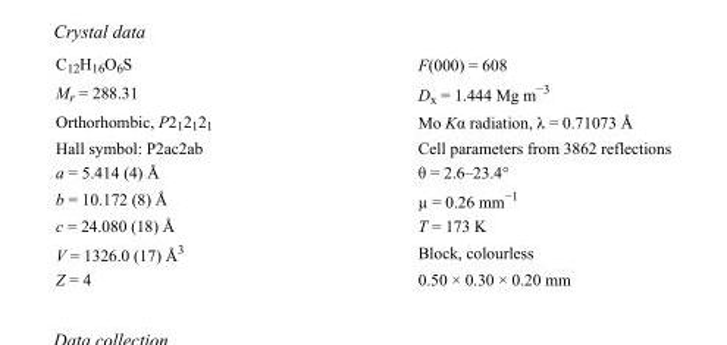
<table><tbody><tr><td>C<sub>12</sub>H<sub>16</sub>O<sub>6</sub>S</td><td>F(000) = 608</td></tr><tr><td>M<sub>r</sub> = 288.31</td><td>D<sub>x</sub> = 1.444 Mg m<sup>−3</sup></td></tr><tr><td>Orthorhombic, P2<sub>1</sub>2<sub>1</sub>2<sub>1</sub></td><td>Mo Kα radiation, λ = 0.71073 Å</td></tr><tr><td>Hall symbol: P2ac2ab</td><td>Cell parameters from 3862 reflections</td></tr><tr><td>a = 5.414 (4) Å</td><td>θ = 2.6–23.4°</td></tr><tr><td>b = 10.172 (8) Å</td><td>µ = 0.26 mm<sup>−1</sup></td></tr><tr><td>c = 24.080 (18) Å</td><td>T = 173 K</td></tr><tr><td>V = 1326.0 (17) Å<sup>3</sup></td><td>Block, colourless</td></tr><tr><td>Z = 4</td><td>0.50 × 0.30 × 0.20 mm</td></tr></tbody></table>